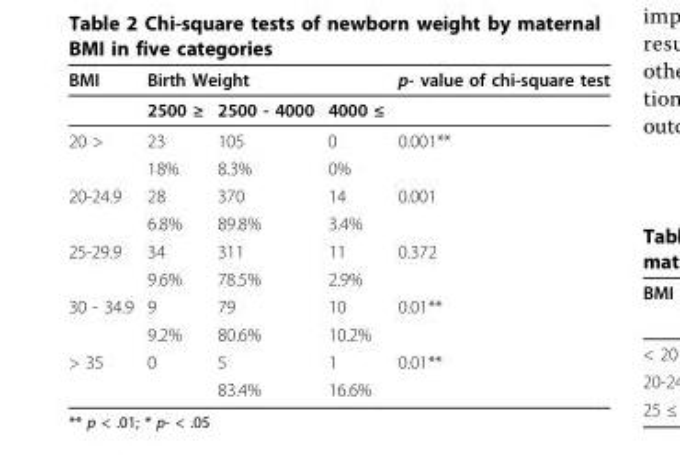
<table><thead><tr><td rowspan="2">BMI</td><td colspan="3">Birth Weight</td><td rowspan="2">p- value of chi-square test</td></tr><tr><td>2500 ≥</td><td>2500 - 4000</td><td>4000 ≤</td></tr></thead><tbody><tr><td rowspan="2">20 &gt;</td><td>23</td><td>105</td><td>0</td><td>0.001**</td></tr><tr><td>18%</td><td>8.3%</td><td>0%</td><td></td></tr><tr><td rowspan="2">20-24.9</td><td>28</td><td>370</td><td>14</td><td>0.001</td></tr><tr><td>6.8%</td><td>89.8%</td><td>3.4%</td><td></td></tr><tr><td rowspan="2">25-29.9</td><td>34</td><td>311</td><td>11</td><td>0.372</td></tr><tr><td>9.6%</td><td>78.5%</td><td>2.9%</td><td></td></tr><tr><td rowspan="2">30 - 34.9</td><td>9</td><td>79</td><td>10</td><td>0.01**</td></tr><tr><td>9.2%</td><td>80.6%</td><td>10.2%</td><td></td></tr><tr><td rowspan="2">&gt; 35</td><td>0</td><td>5</td><td>1</td><td>0.01**</td></tr><tr><td></td><td>83.4%</td><td>16.6%</td><td></td></tr></tbody></table>